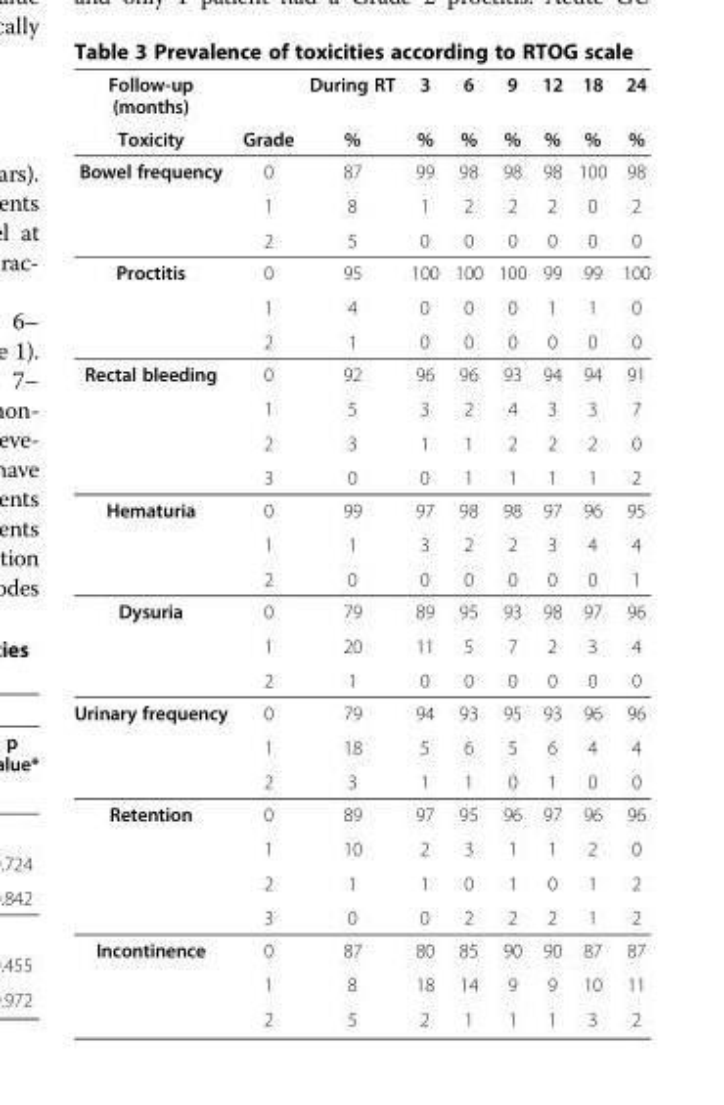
<table><thead><tr><td rowspan="2">Follow-up (months) Toxicity</td><td rowspan="2">Grade</td><td rowspan="2">During RT %</td><td rowspan="2">3 %</td><td rowspan="2">6 %</td><td rowspan="2">9 %</td><td rowspan="2">12 %</td><td rowspan="2">18 %</td><td rowspan="2">24 %</td></tr><tr></tr></thead><tbody><tr><td rowspan="3">Bowel frequency</td><td>0</td><td>87</td><td>99</td><td>98</td><td>98</td><td>98</td><td>100</td><td>98</td></tr><tr><td>1</td><td>8</td><td>1</td><td>2</td><td>2</td><td>2</td><td>0</td><td>2</td></tr><tr><td>2</td><td>5</td><td>0</td><td>0</td><td>0</td><td>0</td><td>0</td><td>0</td></tr><tr><td rowspan="3">Proctitis</td><td>0</td><td>95</td><td>100</td><td>100</td><td>100</td><td>99</td><td>99</td><td>100</td></tr><tr><td>1</td><td>4</td><td>0</td><td>0</td><td>0</td><td>1</td><td>1</td><td>0</td></tr><tr><td>2</td><td>1</td><td>0</td><td>0</td><td>0</td><td>0</td><td>0</td><td>0</td></tr><tr><td rowspan="4">Rectal bleeding</td><td>0</td><td>92</td><td>96</td><td>96</td><td>93</td><td>94</td><td>94</td><td>91</td></tr><tr><td>1</td><td>5</td><td>3</td><td>2</td><td>4</td><td>3</td><td>3</td><td>7</td></tr><tr><td>2</td><td>3</td><td>1</td><td>1</td><td>2</td><td>2</td><td>2</td><td>0</td></tr><tr><td>3</td><td>0</td><td>0</td><td>1</td><td>1</td><td>1</td><td>1</td><td>2</td></tr><tr><td rowspan="3">Hematuria</td><td>0</td><td>99</td><td>97</td><td>98</td><td>98</td><td>97</td><td>96</td><td>95</td></tr><tr><td>1</td><td>1</td><td>3</td><td>2</td><td>2</td><td>3</td><td>4</td><td>4</td></tr><tr><td>2</td><td>0</td><td>0</td><td>0</td><td>0</td><td>0</td><td>0</td><td>1</td></tr><tr><td rowspan="3">Dysuria</td><td>0</td><td>79</td><td>89</td><td>95</td><td>93</td><td>98</td><td>97</td><td>96</td></tr><tr><td>1</td><td>20</td><td>11</td><td>5</td><td>7</td><td>2</td><td>3</td><td>4</td></tr><tr><td>2</td><td>1</td><td>0</td><td>0</td><td>0</td><td>0</td><td>0</td><td>0</td></tr><tr><td rowspan="3">Urinary frequency</td><td>0</td><td>79</td><td>94</td><td>93</td><td>95</td><td>93</td><td>96</td><td>96</td></tr><tr><td>1</td><td>18</td><td>5</td><td>6</td><td>5</td><td>6</td><td>4</td><td>4</td></tr><tr><td>2</td><td>3</td><td>1</td><td>1</td><td>0</td><td>1</td><td>0</td><td>0</td></tr><tr><td rowspan="4">Retention</td><td>0</td><td>89</td><td>97</td><td>95</td><td>96</td><td>97</td><td>96</td><td>96</td></tr><tr><td>1</td><td>10</td><td>2</td><td>3</td><td>1</td><td>1</td><td>2</td><td>0</td></tr><tr><td>2</td><td>1</td><td>1</td><td>0</td><td>1</td><td>0</td><td>1</td><td>2</td></tr><tr><td>3</td><td>0</td><td>0</td><td>2</td><td>2</td><td>2</td><td>1</td><td>2</td></tr><tr><td rowspan="3">Incontinence</td><td>0</td><td>87</td><td>80</td><td>85</td><td>90</td><td>90</td><td>87</td><td>87</td></tr><tr><td>1</td><td>8</td><td>18</td><td>14</td><td>9</td><td>9</td><td>10</td><td>11</td></tr><tr><td>2</td><td>5</td><td>2</td><td>1</td><td>1</td><td>1</td><td>3</td><td>2</td></tr></tbody></table>